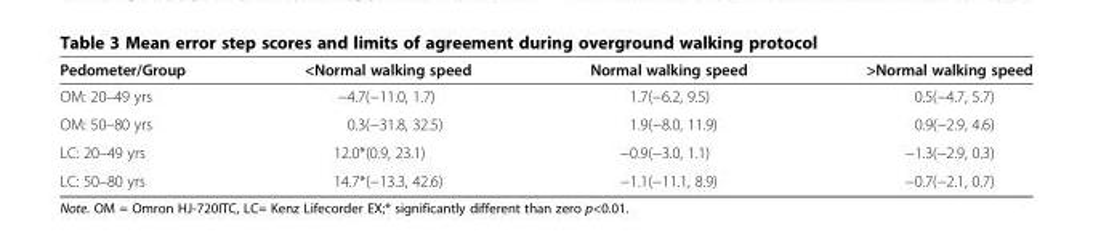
<table><thead><tr><td>Pedometer/Group</td><td>&lt;Normal walking speed</td><td>Normal walking speed</td><td>&gt;Normal walking speed</td></tr></thead><tbody><tr><td>OM: 20–49 yrs</td><td>−4.7(−11.0, 1.7)</td><td>1.7(−6.2, 9.5)</td><td>0.5(−4.7, 5.7)</td></tr><tr><td>OM: 50–80 yrs</td><td>0.3(−31.8, 32.5)</td><td>1.9(−8.0, 11.9)</td><td>0.9(−2.9, 4.6)</td></tr><tr><td>LC: 20–49 yrs</td><td>12.0*(0.9, 23.1)</td><td>−0.9(−3.0, 1.1)</td><td>−1.3(−2.9, 0.3)</td></tr><tr><td>LC: 50–80 yrs</td><td>14.7*(−13.3, 42.6)</td><td>−1.1(−11.1, 8.9)</td><td>−0.7(−2.1, 0.7)</td></tr></tbody></table>